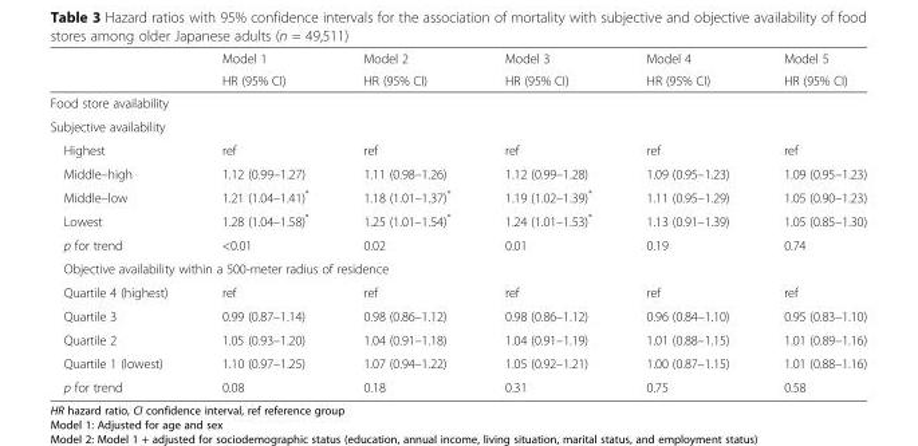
<table><thead><tr><td rowspan="2"></td><td rowspan="2">Model 1 HR (95% CI)</td><td rowspan="2">Model 2 HR (95% CI)</td><td rowspan="2">Model 3 HR (95% CI)</td><td rowspan="2">Model 4 HR (95% CI)</td><td rowspan="2">Model 5 HR (95% CI)</td></tr><tr></tr></thead><tbody><tr><td colspan="6">Food store availability</td></tr><tr><td colspan="6">Subjective availability</td></tr><tr><td>Highest</td><td>ref</td><td>ref</td><td>ref</td><td>ref</td><td>ref</td></tr><tr><td>Middle–high</td><td>1.12 (0.99–1.27)</td><td>1.11 (0.98–1.26)</td><td>1.12 (0.99–1.28)</td><td>1.09 (0.95–1.23)</td><td>1.09 (0.95–1.23)</td></tr><tr><td>Middle–low</td><td>1.21 (1.04–1.41)*</td><td>1.18 (1.01–1.37)*</td><td>1.19 (1.02–1.39)*</td><td>1.11 (0.95–1.29)</td><td>1.05 (0.90–1.23)</td></tr><tr><td>Lowest</td><td>1.28 (1.04–1.58)*</td><td>1.25 (1.01–1.54)*</td><td>1.24 (1.01–1.53)*</td><td>1.13 (0.91–1.39)</td><td>1.05 (0.85–1.30)</td></tr><tr><td>p for trend</td><td>&lt;0.01</td><td>0.02</td><td>0.01</td><td>0.19</td><td>0.74</td></tr><tr><td colspan="6">Objective availability within a 500-meter radius of residence</td></tr><tr><td>Quartile 4 (highest)</td><td>ref</td><td>ref</td><td>ref</td><td>ref</td><td>ref</td></tr><tr><td>Quartile 3</td><td>0.99 (0.87–1.14)</td><td>0.98 (0.86–1.12)</td><td>0.98 (0.86–1.12)</td><td>0.96 (0.84–1.10)</td><td>0.95 (0.83–1.10)</td></tr><tr><td>Quartile 2</td><td>1.05 (0.93–1.20)</td><td>1.04 (0.91–1.18)</td><td>1.04 (0.91–1.19)</td><td>1.01 (0.88–1.15)</td><td>1.01 (0.89–1.16)</td></tr><tr><td>Quartile 1 (lowest)</td><td>1.10 (0.97–1.25)</td><td>1.07 (0.94–1.22)</td><td>1.05 (0.92–1.21)</td><td>1.00 (0.87–1.15)</td><td>1.01 (0.88–1.16)</td></tr><tr><td>p for trend</td><td>0.08</td><td>0.18</td><td>0.31</td><td>0.75</td><td>0.58</td></tr></tbody></table>